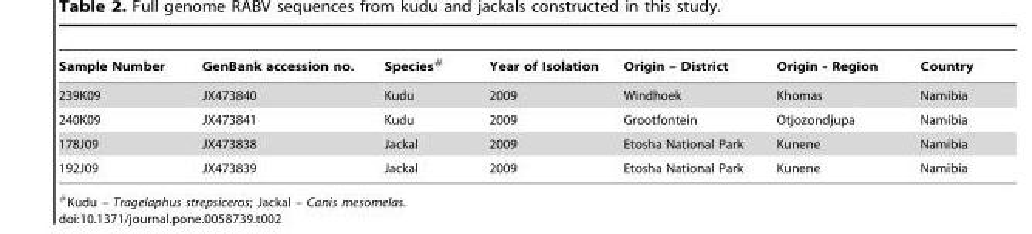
<table><thead><tr><td>Sample Number</td><td>GenBank accession no.</td><td>Species#</td><td>Year of Isolation</td><td>Origin – District</td><td>Origin - Region</td><td>Country</td></tr></thead><tbody><tr><td>239K09</td><td>JX473840</td><td>Kudu</td><td>2009</td><td>Windhoek</td><td>Khomas</td><td>Namibia</td></tr><tr><td>240K09</td><td>JX473841</td><td>Kudu</td><td>2009</td><td>Grootfontein</td><td>Otjozondjupa</td><td>Namibia</td></tr><tr><td>178J09</td><td>JX473838</td><td>Jackal</td><td>2009</td><td>Etosha National Park</td><td>Kunene</td><td>Namibia</td></tr><tr><td>192J09</td><td>JX473839</td><td>Jackal</td><td>2009</td><td>Etosha National Park</td><td>Kunene</td><td>Namibia</td></tr></tbody></table>